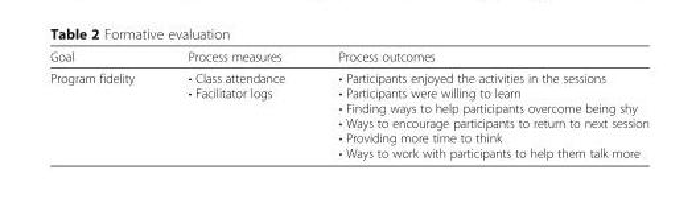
<table><thead><tr><td>Goal</td><td>Process measures</td><td>Process outcomes</td></tr></thead><tbody><tr><td>Program fidelity</td><td>• Class attendance • Facilitator logs</td><td>• Participants enjoyed the activities in the sessions • Participants were willing to learn • Finding ways to help participants overcome being shy • Ways to encourage participants to return to next session • Providing more time to think • Ways to work with participants to help them talk more</td></tr></tbody></table>